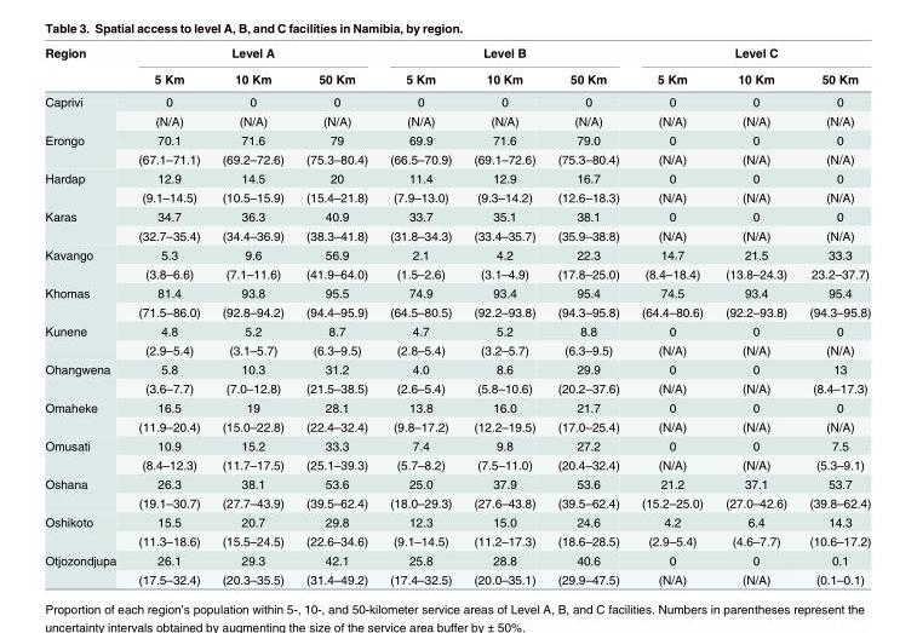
<table><thead><tr><td rowspan="2">Region</td><td colspan="3">Level A</td><td colspan="3">Level B</td><td colspan="3">Level C</td></tr><tr><td>5 Km</td><td>10 Km</td><td>50 Km</td><td>5 Km</td><td>10 Km</td><td>50 Km</td><td>5 Km</td><td>10 Km</td><td>50 Km</td></tr></thead><tbody><tr><td rowspan="2">Caprivi</td><td>0</td><td>0</td><td>0</td><td>0</td><td>0</td><td>0</td><td>0</td><td>0</td><td>0</td></tr><tr><td>(N/A)</td><td>(N/A)</td><td>(N/A)</td><td>(N/A)</td><td>(N/A)</td><td>(N/A)</td><td>(N/A)</td><td>(N/A)</td><td>(N/A)</td></tr><tr><td rowspan="2">Erongo</td><td>70.1</td><td>71.6</td><td>79</td><td>69.9</td><td>71.6</td><td>79.0</td><td>0</td><td>0</td><td>0</td></tr><tr><td>(67.1–71.1)</td><td>(69.2–72.6)</td><td>(75.3–80.4)</td><td>(66.5–70.9)</td><td>(69.1–72.6)</td><td>(75.3–80.4)</td><td>(N/A)</td><td>(N/A)</td><td>(N/A)</td></tr><tr><td rowspan="2">Hardap</td><td>12.9</td><td>14.5</td><td>20</td><td>11.4</td><td>12.9</td><td>16.7</td><td>0</td><td>0</td><td>0</td></tr><tr><td>(9.1–14.5)</td><td>(10.5–15.9)</td><td>(15.4–21.8)</td><td>(7.9–13.0)</td><td>(9.3–14.2)</td><td>(12.6–18.3)</td><td>(N/A)</td><td>(N/A)</td><td>(N/A)</td></tr><tr><td rowspan="2">Karas</td><td>34.7</td><td>36.3</td><td>40.9</td><td>33.7</td><td>35.1</td><td>38.1</td><td>0</td><td>0</td><td>0</td></tr><tr><td>(32.7–35.4)</td><td>(34.4–36.9)</td><td>(38.3–41.8)</td><td>(31.8–34.3)</td><td>(33.4–35.7)</td><td>(35.9–38.8)</td><td>(N/A)</td><td>(N/A)</td><td>(N/A)</td></tr><tr><td rowspan="2">Kavango</td><td>5.3</td><td>9.6</td><td>56.9</td><td>2.1</td><td>4.2</td><td>22.3</td><td>14.7</td><td>21.5</td><td>33.3</td></tr><tr><td>(3.8–6.6)</td><td>(7.1–11.6)</td><td>(41.9–64.0)</td><td>(1.5–2.6)</td><td>(3.1–4.9)</td><td>(17.8–25.0)</td><td>(8.4–18.4)</td><td>(13.8–24.3)</td><td>23.2–37.7)</td></tr><tr><td rowspan="2">Khomas</td><td>81.4</td><td>93.8</td><td>95.5</td><td>74.9</td><td>93.4</td><td>95.4</td><td>74.5</td><td>93.4</td><td>95.4</td></tr><tr><td>(71.5–86.0)</td><td>(92.8–94.2)</td><td>(94.4–95.9)</td><td>(64.5–80.5)</td><td>(92.2–93.8)</td><td>(94.3–95.8)</td><td>(64.4–80.6)</td><td>(92.2–93.8)</td><td>(94.3–95.8)</td></tr><tr><td rowspan="2">Kunene</td><td>4.8</td><td>5.2</td><td>8.7</td><td>4.7</td><td>5.2</td><td>8.8</td><td>0</td><td>0</td><td>0</td></tr><tr><td>(2.9–5.4)</td><td>(3.1–5.7)</td><td>(6.3–9.5)</td><td>(2.8–5.4)</td><td>(3.2–5.7)</td><td>(6.3–9.5)</td><td>(N/A)</td><td>(N/A)</td><td>(N/A)</td></tr><tr><td rowspan="2">Ohangwena</td><td>5.8</td><td>10.3</td><td>31.2</td><td>4.0</td><td>8.6</td><td>29.9</td><td>0</td><td>0</td><td>13</td></tr><tr><td>(3.6–7.7)</td><td>(7.0–12.8)</td><td>(21.5–38.5)</td><td>(2.6–5.4)</td><td>(5.8–10.6)</td><td>(20.2–37.6)</td><td>(N/A)</td><td>(N/A)</td><td>(8.4–17.3)</td></tr><tr><td rowspan="2">Omaheke</td><td>16.5</td><td>19</td><td>28.1</td><td>13.8</td><td>16.0</td><td>21.7</td><td>0</td><td>0</td><td>0</td></tr><tr><td>(11.9–20.4)</td><td>(15.0–22.8)</td><td>(22.4–32.4)</td><td>(9.8–17.2)</td><td>(12.2–19.5)</td><td>(17.0–25.4)</td><td>(N/A)</td><td>(N/A)</td><td>(N/A)</td></tr><tr><td rowspan="2">Omusati</td><td>10.9</td><td>15.2</td><td>33.3</td><td>7.4</td><td>9.8</td><td>27.2</td><td>0</td><td>0</td><td>7.5</td></tr><tr><td>(8.4–12.3)</td><td>(11.7–17.5)</td><td>(25.1–39.3)</td><td>(5.7–8.2)</td><td>(7.5–11.0)</td><td>(20.4–32.4)</td><td>(N/A)</td><td>(N/A)</td><td>(5.3–9.1)</td></tr><tr><td rowspan="2">Oshana</td><td>26.3</td><td>38.1</td><td>53.6</td><td>25.0</td><td>37.9</td><td>53.6</td><td>21.2</td><td>37.1</td><td>53.7</td></tr><tr><td>(19.1–30.7)</td><td>(27.7–43.9)</td><td>(39.5–62.4)</td><td>(18.0–29.3)</td><td>(27.6–43.8)</td><td>(39.5–62.4)</td><td>(15.2–25.0)</td><td>(27.0–42.6)</td><td>(39.8–62.4)</td></tr><tr><td rowspan="2">Oshikoto</td><td>15.5</td><td>20.7</td><td>29.8</td><td>12.3</td><td>15.0</td><td>24.6</td><td>4.2</td><td>6.4</td><td>14.3</td></tr><tr><td>(11.3–18.6)</td><td>(15.5–24.5)</td><td>(22.6–34.6)</td><td>(9.1–14.5)</td><td>(11.2–17.3)</td><td>(18.6–28.5)</td><td>(2.9–5.4)</td><td>(4.6–7.7)</td><td>(10.6–17.2)</td></tr><tr><td rowspan="2">Otjozondjupa</td><td>26.1</td><td>29.3</td><td>42.1</td><td>25.8</td><td>28.8</td><td>40.6</td><td>0</td><td>0</td><td>0.1</td></tr><tr><td>(17.5–32.4)</td><td>(20.3–35.5)</td><td>(31.4–49.2)</td><td>(17.4–32.5)</td><td>(20.0–35.1)</td><td>(29.9–47.5)</td><td>(N/A)</td><td>(N/A)</td><td>(0.1–0.1)</td></tr></tbody></table>